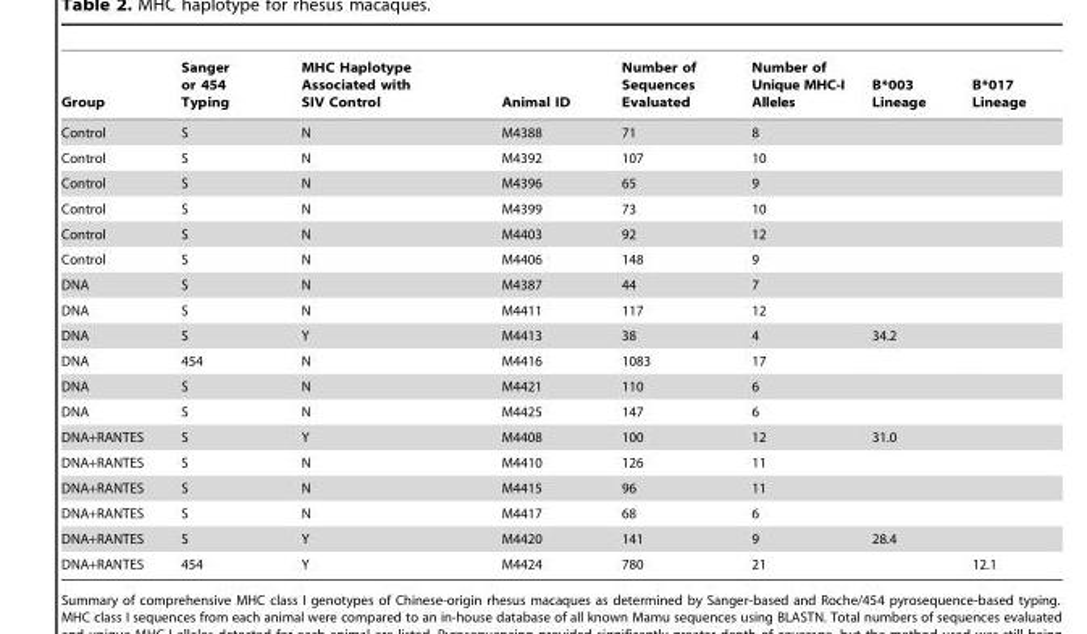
<table><thead><tr><td>Group</td><td>Sanger or 454 Typing</td><td>MHC Haplotype Associated with SIV Control</td><td>Animal ID</td><td>Number of Sequences Evaluated</td><td>Number of Unique MHC-I Alleles</td><td>B*003 Lineage</td><td>B*017 Lineage</td></tr></thead><tbody><tr><td>Control</td><td>S</td><td>N</td><td>M4388</td><td>71</td><td>8</td><td></td><td></td></tr><tr><td>Control</td><td>S</td><td>N</td><td>M4392</td><td>107</td><td>10</td><td></td><td></td></tr><tr><td>Control</td><td>S</td><td>N</td><td>M4396</td><td>65</td><td>9</td><td></td><td></td></tr><tr><td>Control</td><td>S</td><td>N</td><td>M4399</td><td>73</td><td>10</td><td></td><td></td></tr><tr><td>Control</td><td>S</td><td>N</td><td>M4403</td><td>92</td><td>12</td><td></td><td></td></tr><tr><td>Control</td><td>S</td><td>N</td><td>M4406</td><td>148</td><td>9</td><td></td><td></td></tr><tr><td>DNA</td><td>S</td><td>N</td><td>M4387</td><td>44</td><td>7</td><td></td><td></td></tr><tr><td>DNA</td><td>S</td><td>N</td><td>M4411</td><td>117</td><td>12</td><td></td><td></td></tr><tr><td>DNA</td><td>S</td><td>Y</td><td>M4413</td><td>38</td><td>4</td><td>34.2</td><td></td></tr><tr><td>DNA</td><td>454</td><td>N</td><td>M4416</td><td>1083</td><td>17</td><td></td><td></td></tr><tr><td>DNA</td><td>S</td><td>N</td><td>M4421</td><td>110</td><td>6</td><td></td><td></td></tr><tr><td>DNA</td><td>S</td><td>N</td><td>M4425</td><td>147</td><td>6</td><td></td><td></td></tr><tr><td>DNA+RANTES</td><td>S</td><td>Y</td><td>M4408</td><td>100</td><td>12</td><td>31.0</td><td></td></tr><tr><td>DNA+RANTES</td><td>S</td><td>N</td><td>M4410</td><td>126</td><td>11</td><td></td><td></td></tr><tr><td>DNA+RANTES</td><td>S</td><td>N</td><td>M4415</td><td>96</td><td>11</td><td></td><td></td></tr><tr><td>DNA+RANTES</td><td>S</td><td>N</td><td>M4417</td><td>68</td><td>6</td><td></td><td></td></tr><tr><td>DNA+RANTES</td><td>S</td><td>Y</td><td>M4420</td><td>141</td><td>9</td><td>28.4</td><td></td></tr><tr><td>DNA+RANTES</td><td>454</td><td>Y</td><td>M4424</td><td>780</td><td>21</td><td></td><td>12.1</td></tr></tbody></table>